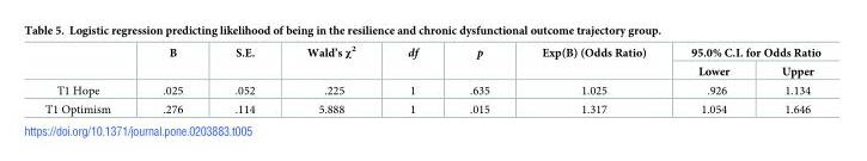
<table><thead><tr><td rowspan="2"></td><td rowspan="2">B</td><td rowspan="2">S.E.</td><td rowspan="2">Wald’s χ<sup>2</sup></td><td rowspan="2">df</td><td rowspan="2">p</td><td rowspan="2">Exp(B) (Odds Ratio)</td><td colspan="2">95.0% C.I. for Odds Ratio</td></tr><tr><td>Lower</td><td>Upper</td></tr></thead><tbody><tr><td>T1 Hope</td><td>.025</td><td>.052</td><td>.225</td><td>1</td><td>.635</td><td>1.025</td><td>.926</td><td>1.134</td></tr><tr><td>T1 Optimism</td><td>.276</td><td>.114</td><td>5.888</td><td>1</td><td>.015</td><td>1.317</td><td>1.054</td><td>1.646</td></tr></tbody></table>